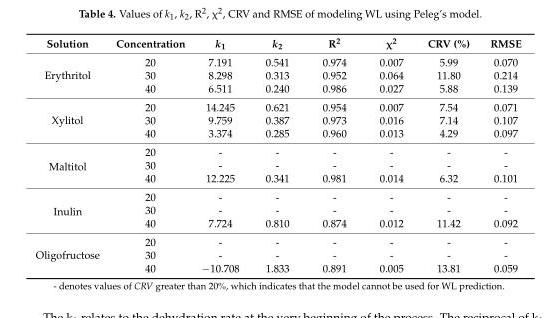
<table><thead><tr><td>Solution</td><td>Concentration</td><td>k<sub>1</sub></td><td>k<sub>2</sub></td><td>R<sup>2</sup></td><td>χ<sup>2</sup></td><td>CRV (%)</td><td>RMSE</td></tr></thead><tbody><tr><td rowspan="3">Erythritol</td><td>20</td><td>7.191</td><td>0.541</td><td>0.974</td><td>0.007</td><td>5.99</td><td>0.070</td></tr><tr><td>30</td><td>8.298</td><td>0.313</td><td>0.952</td><td>0.064</td><td>11.80</td><td>0.214</td></tr><tr><td>40</td><td>6.511</td><td>0.240</td><td>0.986</td><td>0.027</td><td>5.88</td><td>0.139</td></tr><tr><td rowspan="3">Xylitol</td><td>20</td><td>14.245</td><td>0.621</td><td>0.954</td><td>0.007</td><td>7.54</td><td>0.071</td></tr><tr><td>30</td><td>9.759</td><td>0.387</td><td>0.973</td><td>0.016</td><td>7.14</td><td>0.107</td></tr><tr><td>40</td><td>3.374</td><td>0.285</td><td>0.960</td><td>0.013</td><td>4.29</td><td>0.097</td></tr><tr><td rowspan="3">Maltitol</td><td>20</td><td>-</td><td>-</td><td>-</td><td>-</td><td>-</td><td>-</td></tr><tr><td>30</td><td>-</td><td>-</td><td>-</td><td>-</td><td>-</td><td>-</td></tr><tr><td>40</td><td>12.225</td><td>0.341</td><td>0.981</td><td>0.014</td><td>6.32</td><td>0.101</td></tr><tr><td rowspan="3">Inulin</td><td>20</td><td>-</td><td>-</td><td>-</td><td>-</td><td>-</td><td>-</td></tr><tr><td>30</td><td>-</td><td>-</td><td>-</td><td>-</td><td>-</td><td>-</td></tr><tr><td>40</td><td>7.724</td><td>0.810</td><td>0.874</td><td>0.012</td><td>11.42</td><td>0.092</td></tr><tr><td rowspan="3">Oligofructose</td><td>20</td><td>-</td><td>-</td><td>-</td><td>-</td><td>-</td><td>-</td></tr><tr><td>30</td><td>-</td><td>-</td><td>-</td><td>-</td><td>-</td><td>-</td></tr><tr><td>40</td><td>−10.708</td><td>1.833</td><td>0.891</td><td>0.005</td><td>13.81</td><td>0.059</td></tr></tbody></table>